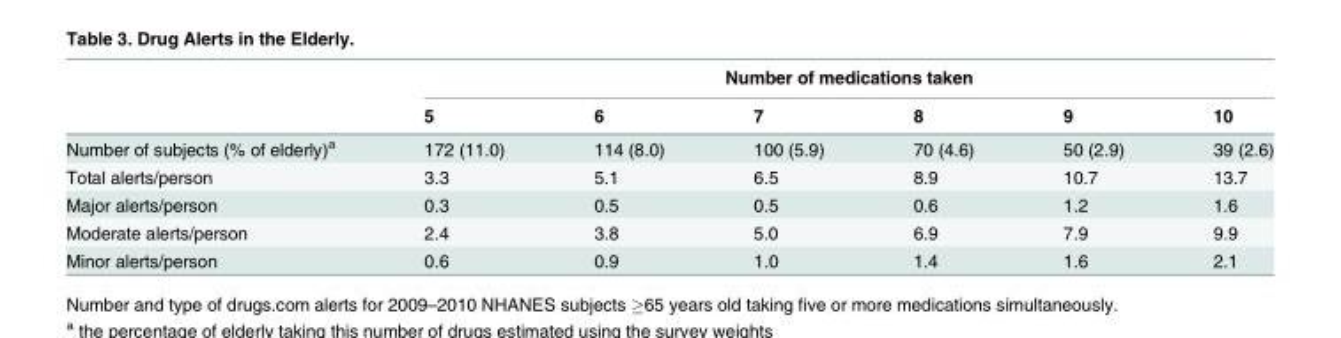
<table><thead><tr><td rowspan="2"></td><td colspan="6">Number of medications taken</td></tr><tr><td>5</td><td>6</td><td>7</td><td>8</td><td>9</td><td>10</td></tr></thead><tbody><tr><td>Number of subjects (% of elderly)<sup>a</sup></td><td>172 (11.0)</td><td>114 (8.0)</td><td>100 (5.9)</td><td>70 (4.6)</td><td>50 (2.9)</td><td>39 (2.6)</td></tr><tr><td>Total alerts/person</td><td>3.3</td><td>5.1</td><td>6.5</td><td>8.9</td><td>10.7</td><td>13.7</td></tr><tr><td>Major alerts/person</td><td>0.3</td><td>0.5</td><td>0.5</td><td>0.6</td><td>1.2</td><td>1.6</td></tr><tr><td>Moderate alerts/person</td><td>2.4</td><td>3.8</td><td>5.0</td><td>6.9</td><td>7.9</td><td>9.9</td></tr><tr><td>Minor alerts/person</td><td>0.6</td><td>0.9</td><td>1.0</td><td>1.4</td><td>1.6</td><td>2.1</td></tr></tbody></table>